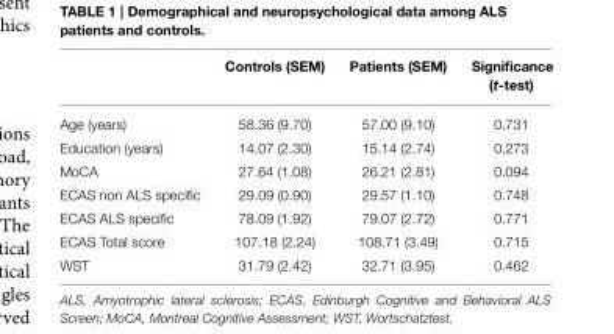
<table><thead><tr><td></td><td>Controls (SEM)</td><td>Patients (SEM)</td><td>Significance (t-test)</td></tr></thead><tbody><tr><td>Age (years)</td><td>58.36 (9.70)</td><td>57.00 (9.10)</td><td>0.731</td></tr><tr><td>Education (years)</td><td>14.07 (2.30)</td><td>15.14 (2.74)</td><td>0.273</td></tr><tr><td>MoCA</td><td>27.64 (1.08)</td><td>26.21 (2.81)</td><td>0.094</td></tr><tr><td>ECAS non ALS specific</td><td>29.09 (0.90)</td><td>29.57 (1.10)</td><td>0.748</td></tr><tr><td>ECAS ALS specific</td><td>78.09 (1.92)</td><td>79.07 (2.72)</td><td>0.771</td></tr><tr><td>ECAS Total score</td><td>107.18 (2.24)</td><td>108.71 (3.49)</td><td>0.715</td></tr><tr><td>WST</td><td>31.79 (2.42)</td><td>32.71 (3.95)</td><td>0.462</td></tr></tbody></table>